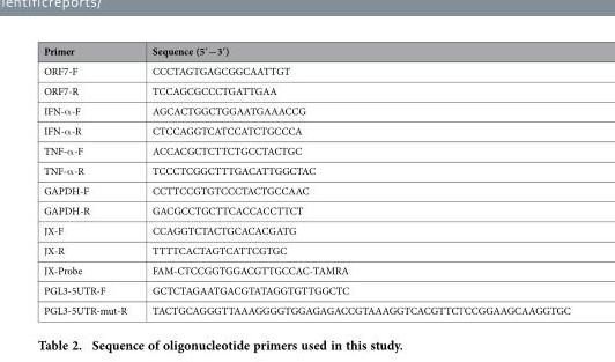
<table><thead><tr><td>Primer</td><td>Sequence (5′−3′)</td></tr></thead><tbody><tr><td>ORF7-F</td><td>CCCTAGTGAGCGGCAATTGT</td></tr><tr><td>ORF7-R</td><td>TCCAGCGCCCTGATTGAA</td></tr><tr><td>IFN-α -F</td><td>AGCACTGGCTGGAATGAAACCG</td></tr><tr><td>IFN-α -R</td><td>CTCCAGGTCATCCATCTGCCCA</td></tr><tr><td>TNF-α -F</td><td>ACCACGCTCTTCTGCCTACTGC</td></tr><tr><td>TNF-α -R</td><td>TCCCTCGGCTTTGACATTGGCTAC</td></tr><tr><td>GAPDH-F</td><td>CCTTCCGTGTCCCTACTGCCAAC</td></tr><tr><td>GAPDH-R</td><td>GACGCCTGCTTCACCACCTTCT</td></tr><tr><td>JX-F</td><td>CCAGGTCTACTGCACACGATG</td></tr><tr><td>JX-R</td><td>TTTTCACTAGTCATTCGTGC</td></tr><tr><td>JX-Probe</td><td>FAM-CTCCGGTGGACGTTGCCAC-TAMRA</td></tr><tr><td>PGL3-5UTR-F</td><td>GCTCTAGAATGACGTATAGGTGTTGGCTC</td></tr><tr><td>PGL3-5UTR-mut-R</td><td>TACTGCAGGGTTAAAGGGGTGGAGAGACCGTAAAGGTCACGTTCTCCGGAAGCAAGGTGC</td></tr></tbody></table>